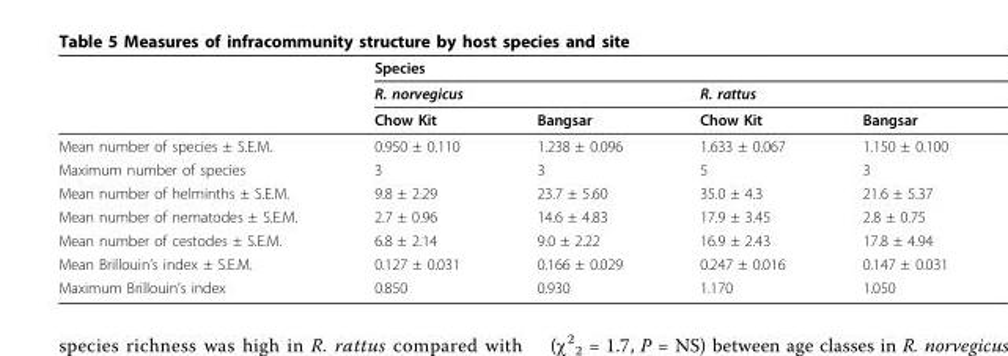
<table><thead><tr><td rowspan="3"></td><td colspan="4">Species</td></tr><tr><td colspan="2">R. norvegicus</td><td colspan="2">R. rattus</td></tr><tr><td>Chow Kit</td><td>Bangsar</td><td>Chow Kit</td><td>Bangsar</td></tr></thead><tbody><tr><td>Mean number of species ± S.E.M.</td><td>0.950 ± 0.110</td><td>1.238 ± 0.096</td><td>1.633 ± 0.067</td><td>1.150 ± 0.100</td></tr><tr><td>Maximum number of species</td><td>3</td><td>3</td><td>5</td><td>3</td></tr><tr><td>Mean number of helminths ± S.E.M.</td><td>9.8 ± 2.29</td><td>23.7 ± 5.60</td><td>35.0 ± 4.3</td><td>21.6 ± 5.37</td></tr><tr><td>Mean number of nematodes ± S.E.M.</td><td>2.7 ± 0.96</td><td>14.6 ± 4.83</td><td>17.9 ± 3.45</td><td>2.8 ± 0.75</td></tr><tr><td>Mean number of cestodes ± S.E.M.</td><td>6.8 ± 2.14</td><td>9.0 ± 2.22</td><td>16.9 ± 2.43</td><td>17.8 ± 4.94</td></tr><tr><td>Mean Brillouin’s index ± S.E.M.</td><td>0.127 ± 0.031</td><td>0.166 ± 0.029</td><td>0.247 ± 0.016</td><td>0.147 ± 0.031</td></tr><tr><td>Maximum Brillouin’s index</td><td>0.850</td><td>0.930</td><td>1.170</td><td>1.050</td></tr></tbody></table>